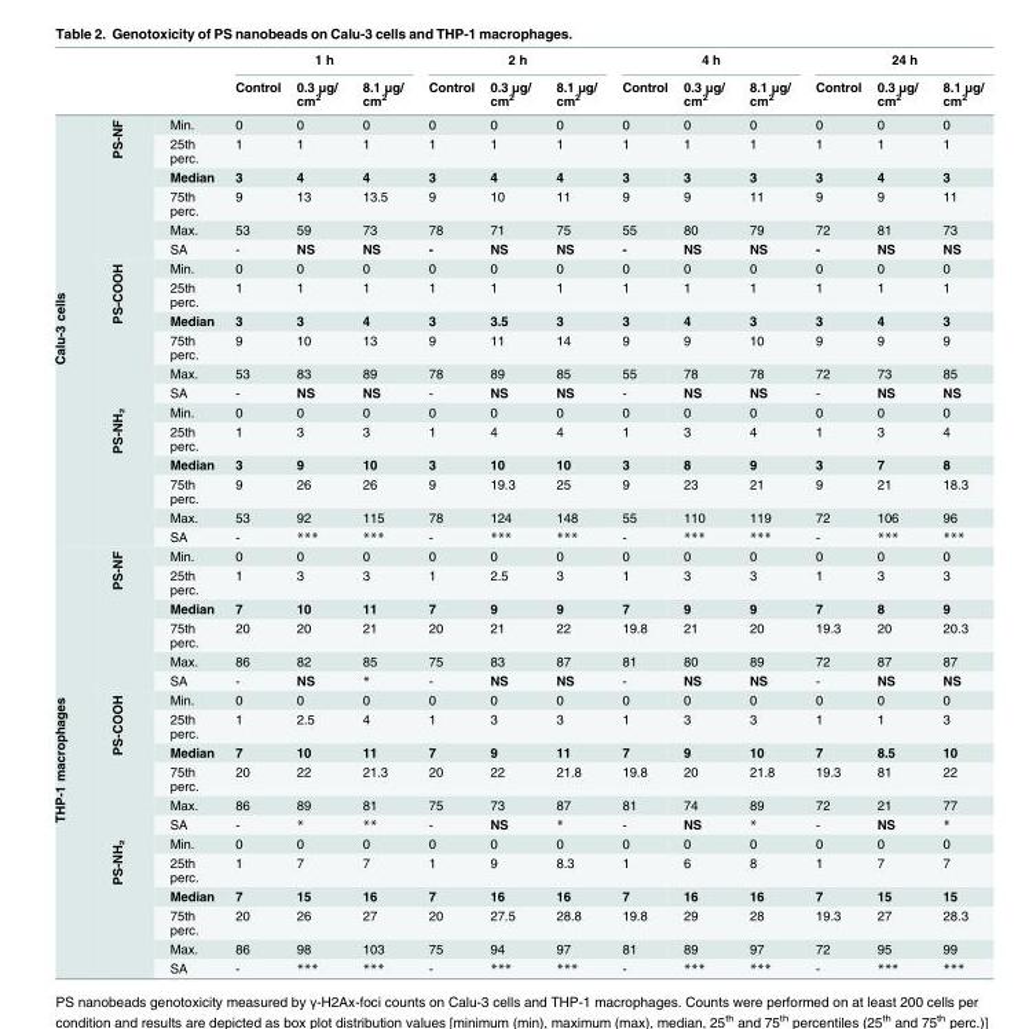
<table><thead><tr><td rowspan="2"></td><td rowspan="2"></td><td rowspan="2"></td><td colspan="3">1 h</td><td colspan="3">2 h</td><td colspan="3">4 h</td><td colspan="3">24 h</td></tr><tr><td>Control</td><td>0.3 μg/ cm<sup>2</sup></td><td>8.1 μg/ cm<sup>2</sup></td><td>Control</td><td>0.3 μg/ cm<sup>2</sup></td><td>8.1 μg/ cm<sup>2</sup></td><td>Control</td><td>0.3 μg/ cm<sup>2</sup></td><td>8.1 μg/ cm<sup>2</sup></td><td>Control</td><td>0.3 μg/ cm<sup>2</sup></td><td>8.1 μg/ cm<sup>2</sup></td></tr></thead><tbody><tr><td rowspan="18">Calu-3 cells</td><td rowspan="6">PS-NF</td><td>Min.</td><td>0</td><td>0</td><td>0</td><td>0</td><td>0</td><td>0</td><td>0</td><td>0</td><td>0</td><td>0</td><td>0</td><td>0</td></tr><tr><td>25th perc.</td><td>1</td><td>1</td><td>1</td><td>1</td><td>1</td><td>1</td><td>1</td><td>1</td><td>1</td><td>1</td><td>1</td><td>1</td></tr><tr><td>Median</td><td>3</td><td>4</td><td>4</td><td>3</td><td>4</td><td>4</td><td>3</td><td>3</td><td>3</td><td>3</td><td>4</td><td>3</td></tr><tr><td>75th perc.</td><td>9</td><td>13</td><td>13.5</td><td>9</td><td>10</td><td>11</td><td>9</td><td>9</td><td>11</td><td>9</td><td>9</td><td>11</td></tr><tr><td>Max.</td><td>53</td><td>59</td><td>73</td><td>78</td><td>71</td><td>75</td><td>55</td><td>80</td><td>79</td><td>72</td><td>81</td><td>73</td></tr><tr><td>SA</td><td>-</td><td>NS</td><td>NS</td><td>-</td><td>NS</td><td>NS</td><td>-</td><td>NS</td><td>NS</td><td>-</td><td>NS</td><td>NS</td></tr><tr><td rowspan="6">PS-COOH</td><td>Min.</td><td>0</td><td>0</td><td>0</td><td>0</td><td>0</td><td>0</td><td>0</td><td>0</td><td>0</td><td>0</td><td>0</td><td>0</td></tr><tr><td>25th perc.</td><td>1</td><td>1</td><td>1</td><td>1</td><td>1</td><td>1</td><td>1</td><td>1</td><td>1</td><td>1</td><td>1</td><td>1</td></tr><tr><td>Median</td><td>3</td><td>3</td><td>4</td><td>3</td><td>3.5</td><td>3</td><td>3</td><td>4</td><td>3</td><td>3</td><td>4</td><td>3</td></tr><tr><td>75th perc.</td><td>9</td><td>10</td><td>13</td><td>9</td><td>11</td><td>14</td><td>9</td><td>9</td><td>10</td><td>9</td><td>9</td><td>9</td></tr><tr><td>Max.</td><td>53</td><td>83</td><td>89</td><td>78</td><td>89</td><td>85</td><td>55</td><td>78</td><td>78</td><td>72</td><td>73</td><td>85</td></tr><tr><td>SA</td><td>-</td><td>NS</td><td>NS</td><td>-</td><td>NS</td><td>NS</td><td>-</td><td>NS</td><td>NS</td><td>-</td><td>NS</td><td>NS</td></tr><tr><td rowspan="6">PS-NH<sub>2</sub></td><td>Min.</td><td>0</td><td>0</td><td>0</td><td>0</td><td>0</td><td>0</td><td>0</td><td>0</td><td>0</td><td>0</td><td>0</td><td>0</td></tr><tr><td>25th perc.</td><td>1</td><td>3</td><td>3</td><td>1</td><td>4</td><td>4</td><td>1</td><td>3</td><td>4</td><td>1</td><td>3</td><td>4</td></tr><tr><td>Median</td><td>3</td><td>9</td><td>10</td><td>3</td><td>10</td><td>10</td><td>3</td><td>8</td><td>9</td><td>3</td><td>7</td><td>8</td></tr><tr><td>75th perc.</td><td>9</td><td>26</td><td>26</td><td>9</td><td>19.3</td><td>25</td><td>9</td><td>23</td><td>21</td><td>9</td><td>21</td><td>18.3</td></tr><tr><td>Max.</td><td>53</td><td>92</td><td>115</td><td>78</td><td>124</td><td>148</td><td>55</td><td>110</td><td>119</td><td>72</td><td>106</td><td>96</td></tr><tr><td>SA</td><td>-</td><td>***</td><td>***</td><td>-</td><td>***</td><td>***</td><td>-</td><td>***</td><td>***</td><td>-</td><td>***</td><td>***</td></tr><tr><td rowspan="18">THP-1 macrophages</td><td rowspan="6">PS-NF</td><td>Min.</td><td>0</td><td>0</td><td>0</td><td>0</td><td>0</td><td>0</td><td>0</td><td>0</td><td>0</td><td>0</td><td>0</td><td>0</td></tr><tr><td>25th perc.</td><td>1</td><td>3</td><td>3</td><td>1</td><td>2.5</td><td>3</td><td>1</td><td>3</td><td>3</td><td>1</td><td>3</td><td>3</td></tr><tr><td>Median</td><td>7</td><td>10</td><td>11</td><td>7</td><td>9</td><td>9</td><td>7</td><td>9</td><td>9</td><td>7</td><td>8</td><td>9</td></tr><tr><td>75th perc.</td><td>20</td><td>20</td><td>21</td><td>20</td><td>21</td><td>22</td><td>19.8</td><td>21</td><td>20</td><td>19.3</td><td>20</td><td>20.3</td></tr><tr><td>Max.</td><td>86</td><td>82</td><td>85</td><td>75</td><td>83</td><td>87</td><td>81</td><td>80</td><td>89</td><td>72</td><td>87</td><td>87</td></tr><tr><td>SA</td><td>-</td><td>NS</td><td>*</td><td>-</td><td>NS</td><td>NS</td><td>-</td><td>NS</td><td>NS</td><td>-</td><td>NS</td><td>NS</td></tr><tr><td rowspan="6">PS-COOH</td><td>Min.</td><td>0</td><td>0</td><td>0</td><td>0</td><td>0</td><td>0</td><td>0</td><td>0</td><td>0</td><td>0</td><td>0</td><td>0</td></tr><tr><td>25th perc.</td><td>1</td><td>2.5</td><td>4</td><td>1</td><td>3</td><td>3</td><td>1</td><td>3</td><td>3</td><td>1</td><td>1</td><td>3</td></tr><tr><td>Median</td><td>7</td><td>10</td><td>11</td><td>7</td><td>9</td><td>11</td><td>7</td><td>9</td><td>10</td><td>7</td><td>8.5</td><td>10</td></tr><tr><td>75th perc.</td><td>20</td><td>22</td><td>21.3</td><td>20</td><td>22</td><td>21.8</td><td>19.8</td><td>20</td><td>21.8</td><td>19.3</td><td>81</td><td>22</td></tr><tr><td>Max.</td><td>86</td><td>89</td><td>81</td><td>75</td><td>73</td><td>87</td><td>81</td><td>74</td><td>89</td><td>72</td><td>21</td><td>77</td></tr><tr><td>SA</td><td>-</td><td>*</td><td>**</td><td>-</td><td>NS</td><td>*</td><td>-</td><td>NS</td><td>*</td><td>-</td><td>NS</td><td>*</td></tr><tr><td rowspan="6">PS-NH<sub>2</sub></td><td>Min.</td><td>0</td><td>0</td><td>0</td><td>0</td><td>0</td><td>0</td><td>0</td><td>0</td><td>0</td><td>0</td><td>0</td><td>0</td></tr><tr><td>25th perc.</td><td>1</td><td>7</td><td>7</td><td>1</td><td>9</td><td>8.3</td><td>1</td><td>6</td><td>8</td><td>1</td><td>7</td><td>7</td></tr><tr><td>Median</td><td>7</td><td>15</td><td>16</td><td>7</td><td>16</td><td>16</td><td>7</td><td>16</td><td>16</td><td>7</td><td>15</td><td>15</td></tr><tr><td>75th perc.</td><td>20</td><td>26</td><td>27</td><td>20</td><td>27.5</td><td>28.8</td><td>19.8</td><td>29</td><td>28</td><td>19.3</td><td>27</td><td>28.3</td></tr><tr><td>Max.</td><td>86</td><td>98</td><td>103</td><td>75</td><td>94</td><td>97</td><td>81</td><td>89</td><td>97</td><td>72</td><td>95</td><td>99</td></tr><tr><td>SA</td><td>-</td><td>***</td><td>***</td><td>-</td><td>***</td><td>***</td><td>-</td><td>***</td><td>***</td><td>-</td><td>***</td><td>***</td></tr></tbody></table>